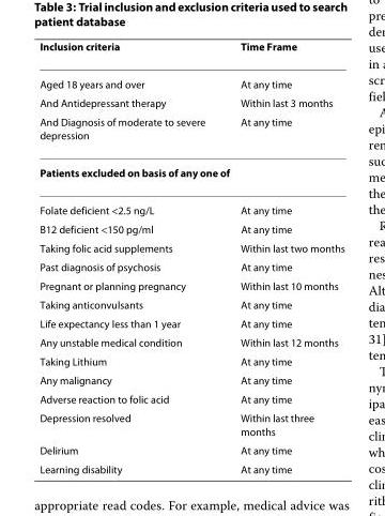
<table><thead><tr><td>Inclusion criteria</td><td>Time Frame</td></tr></thead><tbody><tr><td>Aged 18 years and over</td><td>At any time</td></tr><tr><td>And Antidepressant therapy</td><td>Within last 3 months</td></tr><tr><td>And Diagnosis of moderate to severe depression</td><td>At any time</td></tr><tr><td colspan="2">Patients excluded on basis of any one of</td></tr><tr><td>Folate deficient &lt;2.5 ng/L</td><td>At any time</td></tr><tr><td>B12 deficient &lt;150 pg/ml</td><td>At any time</td></tr><tr><td>Taking folic acid supplements</td><td>Within last two months</td></tr><tr><td>Past diagnosis of psychosis</td><td>At any time</td></tr><tr><td>Pregnant or planning pregnancy</td><td>Within last 10 months</td></tr><tr><td>Taking anticonvulsants</td><td>At any time</td></tr><tr><td>Life expectancy less than 1 year</td><td>At any time</td></tr><tr><td>Any unstable medical condition</td><td>Within last 12 months</td></tr><tr><td>Taking Lithium</td><td>At any time</td></tr><tr><td>Any malignancy</td><td>At any time</td></tr><tr><td>Adverse reaction to folic acid</td><td>At any time</td></tr><tr><td>Depression resolved</td><td>Within last three months</td></tr><tr><td>Delirium</td><td>At any time</td></tr><tr><td>Learning disability</td><td>At any time</td></tr></tbody></table>